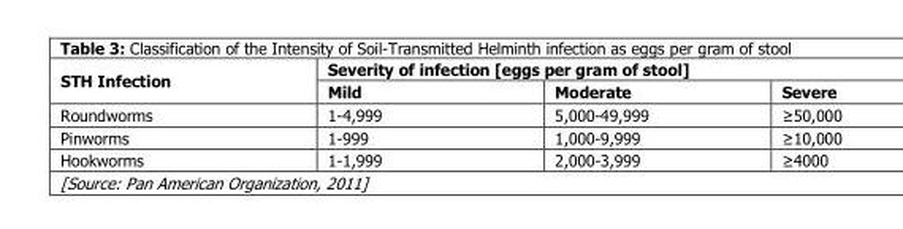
<table><thead><tr><td rowspan="2">STH Infection</td><td colspan="3">Severity of infection [eggs per gram of stool]</td></tr><tr><td>Mild</td><td>Moderate</td><td>Severe</td></tr></thead><tbody><tr><td>Roundworms</td><td>1-4,999</td><td>5,000-49,999</td><td>≥50,000</td></tr><tr><td>Pinworms</td><td>1-999</td><td>1,000-9,999</td><td>≥10,000</td></tr><tr><td>Hookworms</td><td>1-1,999</td><td>2,000-3,999</td><td>≥4000</td></tr></tbody></table>